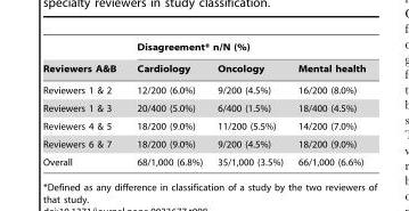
<table><thead><tr><td rowspan="2">Reviewers A&amp;B</td><td colspan="3">Disagreement* n/N (%)</td></tr><tr><td>Cardiology</td><td>Oncology</td><td>Mental health</td></tr></thead><tbody><tr><td>Reviewers 1 &amp; 2</td><td>12/200 (6.0%)</td><td>9/200 (4.5%)</td><td>16/200 (8.0%)</td></tr><tr><td>Reviewers 1 &amp; 3</td><td>20/400 (5.0%)</td><td>6/400 (1.5%)</td><td>18/400 (4.5%)</td></tr><tr><td>Reviewers 4 &amp; 5</td><td>18/200 (9.0%)</td><td>11/200 (5.5%)</td><td>14/200 (7.0%)</td></tr><tr><td>Reviewers 6 &amp; 7</td><td>18/200 (9.0%)</td><td>9/200 (4.5%)</td><td>18/200 (9.0%)</td></tr><tr><td>Overall</td><td>68/1,000 (6.8%)</td><td>35/1,000 (3.5%)</td><td>66/1,000 (6.6%)</td></tr></tbody></table>